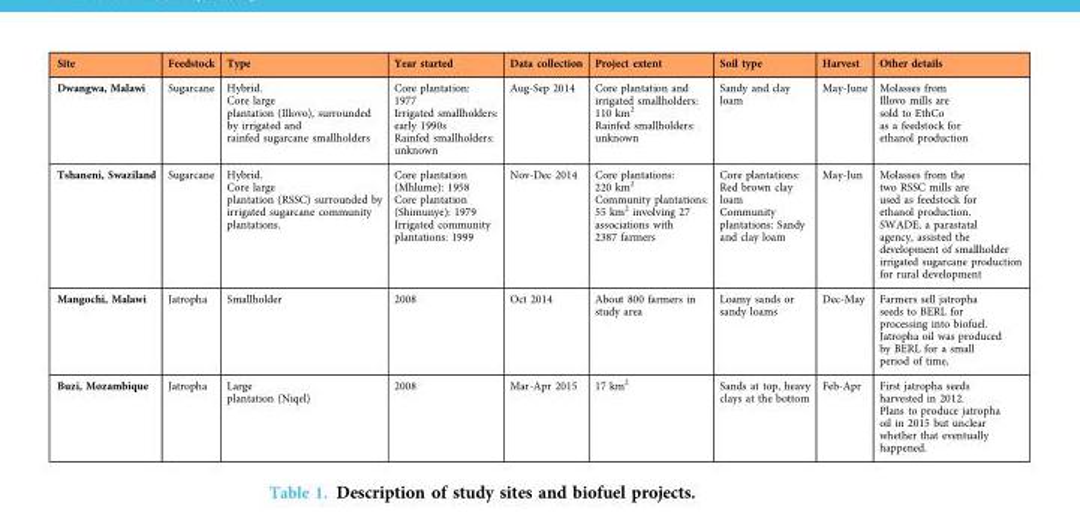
<table><thead><tr><td>Site</td><td>Feedstock</td><td>Type</td><td>Year started</td><td>Data collection</td><td>Project extent</td><td>Soil type</td><td>Harvest</td><td>Other details</td></tr></thead><tbody><tr><td>Dwangwa, Malawi</td><td>Sugarcane</td><td>Hybrid. Core large plantation (Illovo), surrounded by irrigated and rainfed sugarcane smallholders</td><td>Core plantation: 1977 Irrigated smallholders: early 1990s Rainfed smallholders: unknown</td><td>Aug-Sep 2014</td><td>Core plantation and irrigated smallholders: 110 km<sup>2</sup> Rainfed smallholders: unknown</td><td>Sandy and clay loam</td><td>May-June</td><td>Molasses from Illovo mills are sold to EthCo as a feedstock for ethanol production</td></tr><tr><td>Tshaneni, Swaziland</td><td>Sugarcane</td><td>Hybrid. Core large plantation (RSSC) surrounded by irrigated sugarcane community plantations.</td><td>Core plantation (Mhlume): 1958 Core plantation (Shimunye): 1979 Irrigated community plantations: 1999</td><td>Nov-Dec 2014</td><td>Core plantations: 220 km<sup>2</sup> Community plantations: 55 km<sup>2</sup> involving 27 associations with 2387 farmers</td><td>Core plantations: Red brown clay loam Community plantations: Sandy and clay loam</td><td>May-Jun</td><td>Molasses from the two RSSC mills are used as feedstock for ethanol production. SWADE, a parastatal agency, assisted the development of smallholder irrigated sugarcane production for rural development</td></tr><tr><td>Mangochi, Malawi</td><td>Jatropha</td><td>Smallholder</td><td>2008</td><td>Oct 2014</td><td>About 800 farmers in study area</td><td>Loamy sands or sandy loams</td><td>Dec-May</td><td>Farmers sell jatropha seeds to BERL for processing into biofuel. Jatropha oil was produced by BERL for a small period of time,</td></tr><tr><td>Buzi, Mozambique</td><td>Jatropha</td><td>Large plantation (Niqel)</td><td>2008</td><td>Mar-Apr 2015</td><td>17 km<sup>2</sup></td><td>Sands at top, heavy clays at the bottom</td><td>Feb-Apr</td><td>First jatropha seeds harvested in 2012. Plans to produce jatropha oil in 2015 but unclear whether that eventually happened.</td></tr></tbody></table>